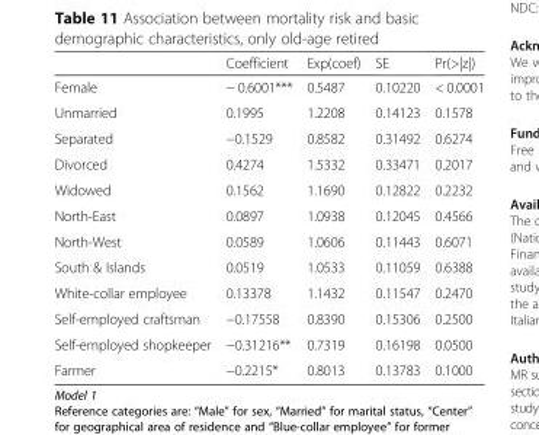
<table><thead><tr><td></td><td>Coefficient</td><td>Exp(coef)</td><td>SE</td><td>Pr(&gt;|z|)</td></tr></thead><tbody><tr><td>Female</td><td>− 0.6001***</td><td>0.5487</td><td>0.10220</td><td>&lt; 0.0001</td></tr><tr><td>Unmarried</td><td>0.1995</td><td>1.2208</td><td>0.14123</td><td>0.1578</td></tr><tr><td>Separated</td><td>−0.1529</td><td>0.8582</td><td>0.31492</td><td>0.6274</td></tr><tr><td>Divorced</td><td>0.4274</td><td>1.5332</td><td>0.33471</td><td>0.2017</td></tr><tr><td>Widowed</td><td>0.1562</td><td>1.1690</td><td>0.12822</td><td>0.2232</td></tr><tr><td>North-East</td><td>0.0897</td><td>1.0938</td><td>0.12045</td><td>0.4566</td></tr><tr><td>North-West</td><td>0.0589</td><td>1.0606</td><td>0.11443</td><td>0.6071</td></tr><tr><td>South &amp; Islands</td><td>0.0519</td><td>1.0533</td><td>0.11059</td><td>0.6388</td></tr><tr><td>White-collar employee</td><td>0.13378</td><td>1.1432</td><td>0.11547</td><td>0.2470</td></tr><tr><td>Self-employed craftsman</td><td>−0.17558</td><td>0.8390</td><td>0.15306</td><td>0.2500</td></tr><tr><td>Self-employed shopkeeper</td><td>−0.31216**</td><td>0.7319</td><td>0.16198</td><td>0.0500</td></tr><tr><td>Farmer</td><td>−0.2215*</td><td>0.8013</td><td>0.13783</td><td>0.1000</td></tr></tbody></table>